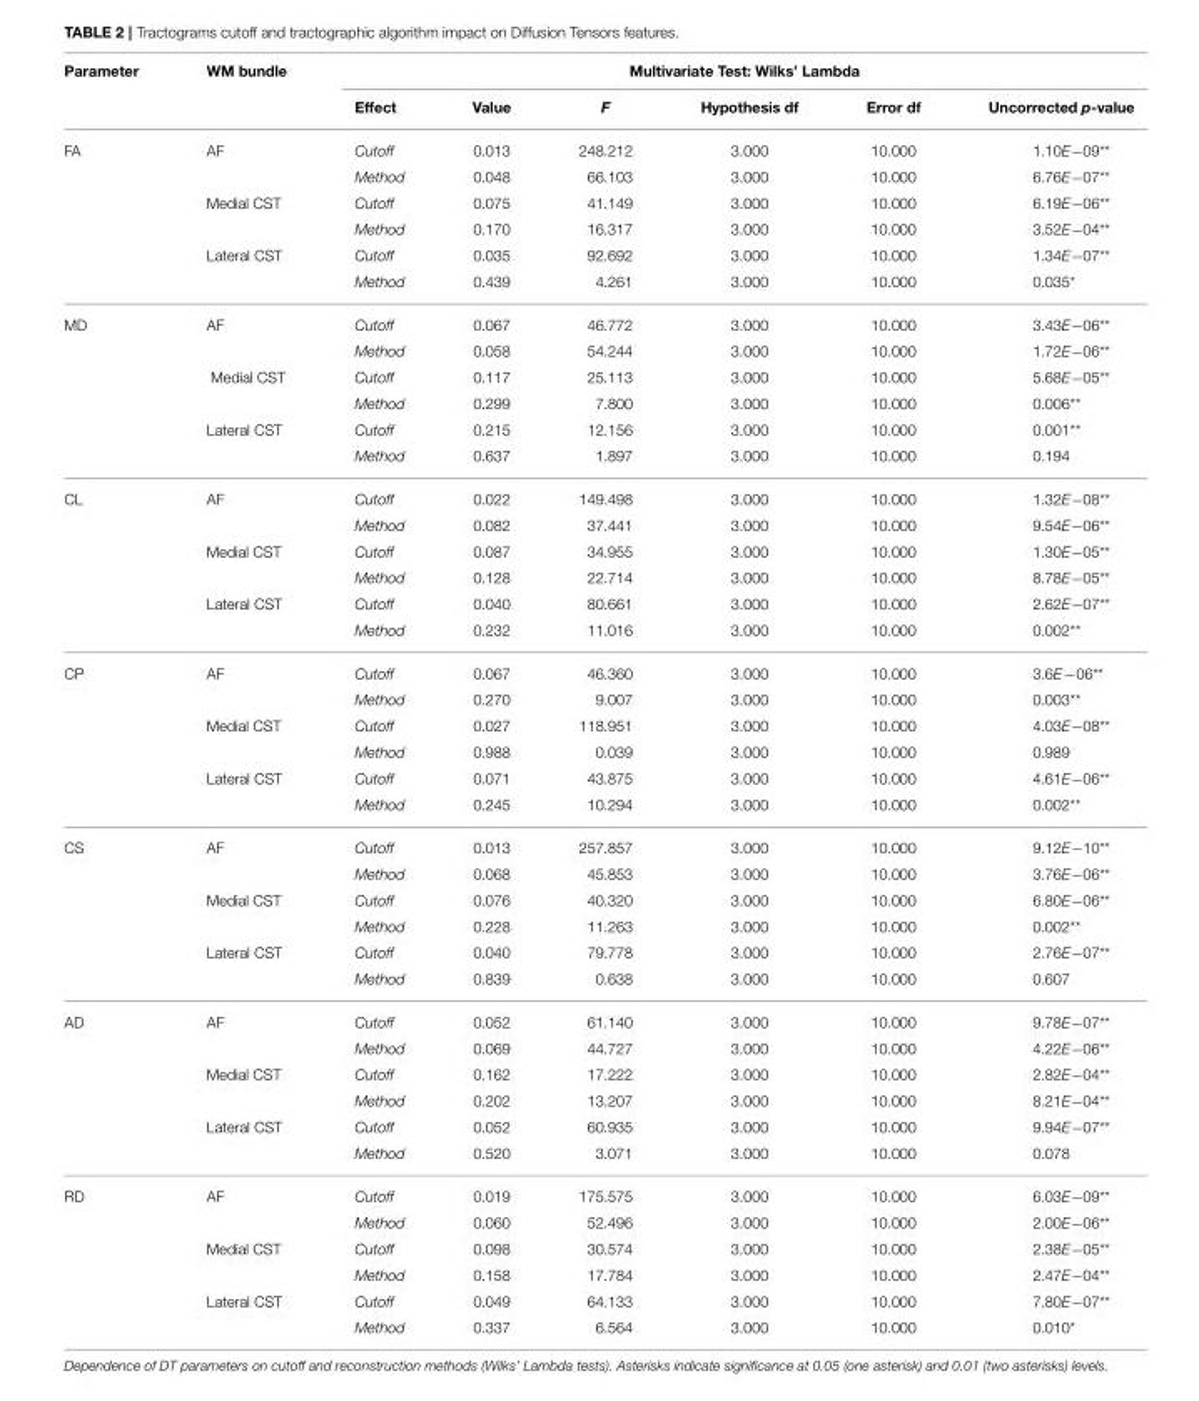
<table><thead><tr><td rowspan="2">Parameter</td><td rowspan="2">WM bundle</td><td colspan="6">Multivariate Test: Wilks’ Lambda</td></tr><tr><td>Effect</td><td>Value</td><td>F</td><td>Hypothesis df</td><td>Error df</td><td>Uncorrected p-value</td></tr></thead><tbody><tr><td rowspan="6">FA</td><td>AF</td><td>Cutoff</td><td>0.013</td><td>248.212</td><td>3.000</td><td>10.000</td><td>1.10E−09**</td></tr><tr><td></td><td>Method</td><td>0.048</td><td>66.103</td><td>3.000</td><td>10.000</td><td>6.76E−07**</td></tr><tr><td>Medial CST</td><td>Cutoff</td><td>0.075</td><td>41.149</td><td>3.000</td><td>10.000</td><td>6.19E−06**</td></tr><tr><td></td><td>Method</td><td>0.170</td><td>16.317</td><td>3.000</td><td>10.000</td><td>3.52E−04**</td></tr><tr><td>Lateral CST</td><td>Cutoff</td><td>0.035</td><td>92.692</td><td>3.000</td><td>10.000</td><td>1.34E−07**</td></tr><tr><td></td><td>Method</td><td>0.439</td><td>4.261</td><td>3.000</td><td>10.000</td><td>0.035*</td></tr><tr><td rowspan="6">MD</td><td>AF</td><td>Cutoff</td><td>0.067</td><td>46.772</td><td>3.000</td><td>10.000</td><td>3.43E−06**</td></tr><tr><td></td><td>Method</td><td>0.058</td><td>54.244</td><td>3.000</td><td>10.000</td><td>1.72E−06**</td></tr><tr><td>Medial CST</td><td>Cutoff</td><td>0.117</td><td>25.113</td><td>3.000</td><td>10.000</td><td>5.68E−05**</td></tr><tr><td></td><td>Method</td><td>0.299</td><td>7.800</td><td>3.000</td><td>10.000</td><td>0.006**</td></tr><tr><td>Lateral CST</td><td>Cutoff</td><td>0.215</td><td>12.156</td><td>3.000</td><td>10.000</td><td>0.001**</td></tr><tr><td></td><td>Method</td><td>0.637</td><td>1.897</td><td>3.000</td><td>10.000</td><td>0.194</td></tr><tr><td rowspan="6">CL</td><td>AF</td><td>Cutoff</td><td>0.022</td><td>149.498</td><td>3.000</td><td>10.000</td><td>1.32E−08**</td></tr><tr><td></td><td>Method</td><td>0.082</td><td>37.441</td><td>3.000</td><td>10.000</td><td>9.54E−06**</td></tr><tr><td>Medial CST</td><td>Cutoff</td><td>0.087</td><td>34.955</td><td>3.000</td><td>10.000</td><td>1.30E−05**</td></tr><tr><td></td><td>Method</td><td>0.128</td><td>22.714</td><td>3.000</td><td>10.000</td><td>8.78E−05**</td></tr><tr><td>Lateral CST</td><td>Cutoff</td><td>0.040</td><td>80.661</td><td>3.000</td><td>10.000</td><td>2.62E−07**</td></tr><tr><td></td><td>Method</td><td>0.232</td><td>11.016</td><td>3.000</td><td>10.000</td><td>0.002**</td></tr><tr><td rowspan="6">CP</td><td>AF</td><td>Cutoff</td><td>0.067</td><td>46.360</td><td>3.000</td><td>10.000</td><td>3.6E−06**</td></tr><tr><td></td><td>Method</td><td>0.270</td><td>9.007</td><td>3.000</td><td>10.000</td><td>0.003**</td></tr><tr><td>Medial CST</td><td>Cutoff</td><td>0.027</td><td>118.951</td><td>3.000</td><td>10.000</td><td>4.03E−08**</td></tr><tr><td></td><td>Method</td><td>0.988</td><td>0.039</td><td>3.000</td><td>10.000</td><td>0.989</td></tr><tr><td>Lateral CST</td><td>Cutoff</td><td>0.071</td><td>43.875</td><td>3.000</td><td>10.000</td><td>4.61E−06**</td></tr><tr><td></td><td>Method</td><td>0.245</td><td>10.294</td><td>3.000</td><td>10.000</td><td>0.002**</td></tr><tr><td rowspan="6">CS</td><td>AF</td><td>Cutoff</td><td>0.013</td><td>257.857</td><td>3.000</td><td>10.000</td><td>9.12E−10**</td></tr><tr><td></td><td>Method</td><td>0.068</td><td>45.853</td><td>3.000</td><td>10.000</td><td>3.76E−06**</td></tr><tr><td>Medial CST</td><td>Cutoff</td><td>0.076</td><td>40.320</td><td>3.000</td><td>10.000</td><td>6.80E−06**</td></tr><tr><td></td><td>Method</td><td>0.228</td><td>11.263</td><td>3.000</td><td>10.000</td><td>0.002**</td></tr><tr><td>Lateral CST</td><td>Cutoff</td><td>0.040</td><td>79.778</td><td>3.000</td><td>10.000</td><td>2.76E−07**</td></tr><tr><td></td><td>Method</td><td>0.839</td><td>0.638</td><td>3.000</td><td>10.000</td><td>0.607</td></tr><tr><td rowspan="6">AD</td><td>AF</td><td>Cutoff</td><td>0.052</td><td>61.140</td><td>3.000</td><td>10.000</td><td>9.78E−07**</td></tr><tr><td></td><td>Method</td><td>0.069</td><td>44.727</td><td>3.000</td><td>10.000</td><td>4.22E−06**</td></tr><tr><td>Medial CST</td><td>Cutoff</td><td>0.162</td><td>17.222</td><td>3.000</td><td>10.000</td><td>2.82E−04**</td></tr><tr><td></td><td>Method</td><td>0.202</td><td>13.207</td><td>3.000</td><td>10.000</td><td>8.21E−04**</td></tr><tr><td>Lateral CST</td><td>Cutoff</td><td>0.052</td><td>60.935</td><td>3.000</td><td>10.000</td><td>9.94E−07**</td></tr><tr><td></td><td>Method</td><td>0.520</td><td>3.071</td><td>3.000</td><td>10.000</td><td>0.078</td></tr><tr><td rowspan="6">RD</td><td>AF</td><td>Cutoff</td><td>0.019</td><td>175.575</td><td>3.000</td><td>10.000</td><td>6.03E−09**</td></tr><tr><td></td><td>Method</td><td>0.060</td><td>52.496</td><td>3.000</td><td>10.000</td><td>2.00E−06**</td></tr><tr><td>Medial CST</td><td>Cutoff</td><td>0.098</td><td>30.574</td><td>3.000</td><td>10.000</td><td>2.38E−05**</td></tr><tr><td></td><td>Method</td><td>0.158</td><td>17.784</td><td>3.000</td><td>10.000</td><td>2.47E−04**</td></tr><tr><td>Lateral CST</td><td>Cutoff</td><td>0.049</td><td>64.133</td><td>3.000</td><td>10.000</td><td>7.80E−07**</td></tr><tr><td></td><td>Method</td><td>0.337</td><td>6.564</td><td>3.000</td><td>10.000</td><td>0.010*</td></tr></tbody></table>